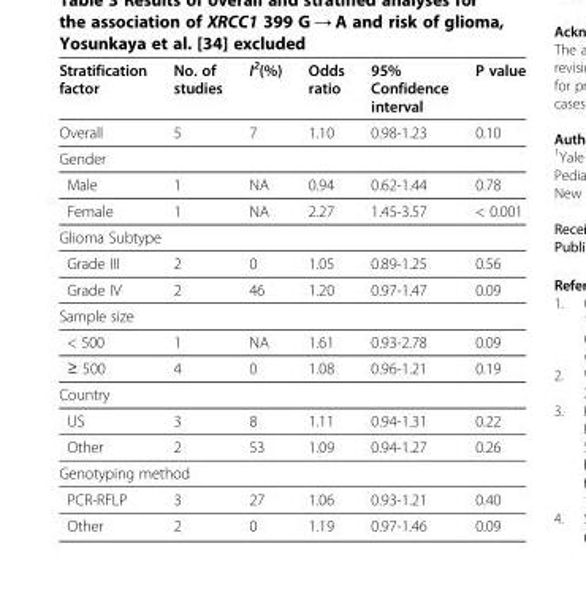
<table><thead><tr><td>Stratification factor</td><td>No. of studies</td><td>I<sup>2</sup>(%)</td><td>Odds ratio</td><td>95% Confidence interval</td><td>P value</td></tr></thead><tbody><tr><td>Overall</td><td>5</td><td>7</td><td>1.10</td><td>0.98-1.23</td><td>0.10</td></tr><tr><td colspan="6">Gender</td></tr><tr><td>Male</td><td>1</td><td>NA</td><td>0.94</td><td>0.62-1.44</td><td>0.78</td></tr><tr><td>Female</td><td>1</td><td>NA</td><td>2.27</td><td>1.45-3.57</td><td>&lt; 0.001</td></tr><tr><td colspan="6">Glioma Subtype</td></tr><tr><td>Grade III</td><td>2</td><td>0</td><td>1.05</td><td>0.89-1.25</td><td>0.56</td></tr><tr><td>Grade IV</td><td>2</td><td>46</td><td>1.20</td><td>0.97-1.47</td><td>0.09</td></tr><tr><td colspan="6">Sample size</td></tr><tr><td>&lt; 500</td><td>1</td><td>NA</td><td>1.61</td><td>0.93-2.78</td><td>0.09</td></tr><tr><td>≥ 500</td><td>4</td><td>0</td><td>1.08</td><td>0.96-1.21</td><td>0.19</td></tr><tr><td colspan="6">Country</td></tr><tr><td>US</td><td>3</td><td>8</td><td>1.11</td><td>0.94-1.31</td><td>0.22</td></tr><tr><td>Other</td><td>2</td><td>53</td><td>1.09</td><td>0.94-1.27</td><td>0.26</td></tr><tr><td colspan="6">Genotyping method</td></tr><tr><td>PCR-RFLP</td><td>3</td><td>27</td><td>1.06</td><td>0.93-1.21</td><td>0.40</td></tr><tr><td>Other</td><td>2</td><td>0</td><td>1.19</td><td>0.97-1.46</td><td>0.09</td></tr></tbody></table>